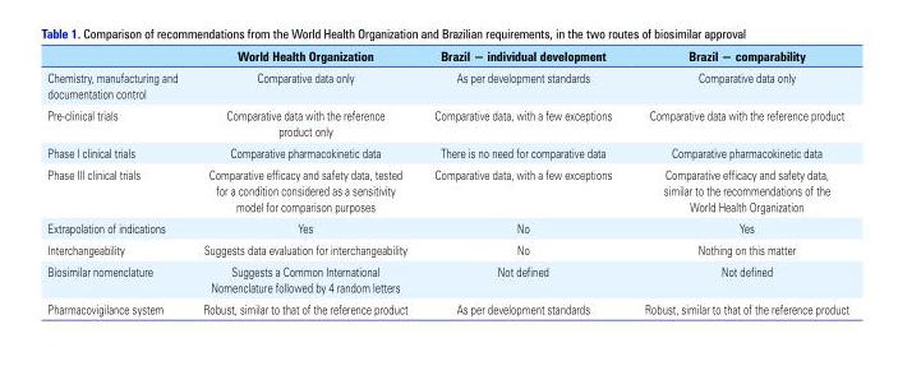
<table><thead><tr><td></td><td>World Health Organization</td><td>Brazil − individual development</td><td>Brazil − comparability</td></tr></thead><tbody><tr><td>Chemistry, manufacturing and documentation control</td><td>Comparative data only</td><td>As per development standards</td><td>Comparative data only</td></tr><tr><td>Pre-clinical trials</td><td>Comparative data with the reference product only</td><td>Comparative data, with a few exceptions</td><td>Comparative data with the reference product</td></tr><tr><td>Phase I clinical trials</td><td>Comparative pharmacokinetic data</td><td>There is no need for comparative data</td><td>Comparative pharmacokinetic data</td></tr><tr><td>Phase III clinical trials</td><td>Comparative efficacy and safety data, tested for a condition considered as a sensitivity model for comparison purposes</td><td>Comparative data, with a few exceptions</td><td>Comparative efficacy and safety data, similar to the recommendations of the World Health Organization</td></tr><tr><td>Extrapolation of indications</td><td>Yes</td><td>No</td><td>Yes</td></tr><tr><td>Interchangeability</td><td>Suggests data evaluation for interchangeability</td><td>No</td><td>Nothing on this matter</td></tr><tr><td>Biosimilar nomenclature</td><td>Suggests a Common International Nomenclature followed by 4 random letters</td><td>Not defined</td><td>Not defined</td></tr><tr><td>Pharmacovigilance system</td><td>Robust, similar to that of the reference product</td><td>As per development standards</td><td>Robust, similar to that of the reference product</td></tr></tbody></table>